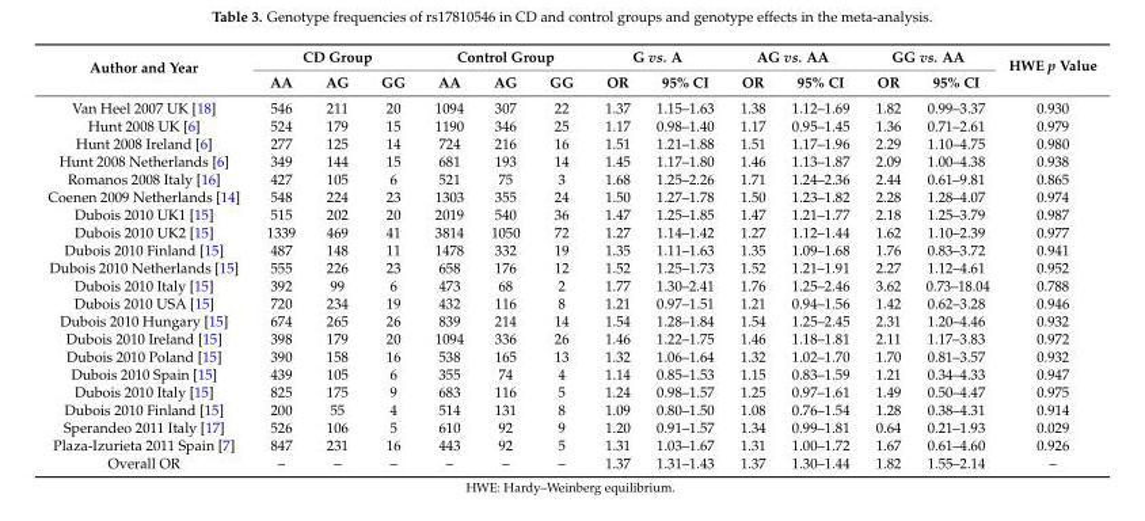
<table><thead><tr><td rowspan="2">Author and Year</td><td colspan="3">CD Group</td><td colspan="3">Control Group</td><td colspan="2">G vs. A</td><td colspan="2">AG vs. AA</td><td colspan="2">GG vs. AA</td><td rowspan="2">HWE p Value</td></tr><tr><td>AA</td><td>AG</td><td>GG</td><td>AA</td><td>AG</td><td>GG</td><td>OR</td><td>95% CI</td><td>OR</td><td>95% CI</td><td>OR</td><td>95% CI</td></tr></thead><tbody><tr><td>Van Heel 2007 UK [18]</td><td>546</td><td>211</td><td>20</td><td>1094</td><td>307</td><td>22</td><td>1.37</td><td>1.15–1.63</td><td>1.38</td><td>1.12–1.69</td><td>1.82</td><td>0.99–3.37</td><td>0.930</td></tr><tr><td>Hunt 2008 UK [6]</td><td>524</td><td>179</td><td>15</td><td>1190</td><td>346</td><td>25</td><td>1.17</td><td>0.98–1.40</td><td>1.17</td><td>0.95–1.45</td><td>1.36</td><td>0.71–2.61</td><td>0.979</td></tr><tr><td>Hunt 2008 Ireland [6]</td><td>277</td><td>125</td><td>14</td><td>724</td><td>216</td><td>16</td><td>1.51</td><td>1.21–1.88</td><td>1.51</td><td>1.17–1.96</td><td>2.29</td><td>1.10–4.75</td><td>0.980</td></tr><tr><td>Hunt 2008 Netherlands [6]</td><td>349</td><td>144</td><td>15</td><td>681</td><td>193</td><td>14</td><td>1.45</td><td>1.17–1.80</td><td>1.46</td><td>1.13–1.87</td><td>2.09</td><td>1.00–4.38</td><td>0.938</td></tr><tr><td>Romanos 2008 Italy [16]</td><td>427</td><td>105</td><td>6</td><td>521</td><td>75</td><td>3</td><td>1.68</td><td>1.25–2.26</td><td>1.71</td><td>1.24–2.36</td><td>2.44</td><td>0.61–9.81</td><td>0.865</td></tr><tr><td>Coenen 2009 Netherlands [14]</td><td>548</td><td>224</td><td>23</td><td>1303</td><td>355</td><td>24</td><td>1.50</td><td>1.27–1.78</td><td>1.50</td><td>1.23–1.82</td><td>2.28</td><td>1.28–4.07</td><td>0.974</td></tr><tr><td>Dubois 2010 UK1 [15]</td><td>515</td><td>202</td><td>20</td><td>2019</td><td>540</td><td>36</td><td>1.47</td><td>1.25–1.85</td><td>1.47</td><td>1.21–1.77</td><td>2.18</td><td>1.25–3.79</td><td>0.987</td></tr><tr><td>Dubois 2010 UK2 [15]</td><td>1339</td><td>469</td><td>41</td><td>3814</td><td>1050</td><td>72</td><td>1.27</td><td>1.14–1.42</td><td>1.27</td><td>1.12–1.44</td><td>1.62</td><td>1.10–2.39</td><td>0.977</td></tr><tr><td>Dubois 2010 Finland [15]</td><td>487</td><td>148</td><td>11</td><td>1478</td><td>332</td><td>19</td><td>1.35</td><td>1.11–1.63</td><td>1.35</td><td>1.09–1.68</td><td>1.76</td><td>0.83–3.72</td><td>0.941</td></tr><tr><td>Dubois 2010 Netherlands [15]</td><td>555</td><td>226</td><td>23</td><td>658</td><td>176</td><td>12</td><td>1.52</td><td>1.25–1.73</td><td>1.52</td><td>1.21–1.91</td><td>2.27</td><td>1.12–4.61</td><td>0.952</td></tr><tr><td>Dubois 2010 Italy [15]</td><td>392</td><td>99</td><td>6</td><td>473</td><td>68</td><td>2</td><td>1.77</td><td>1.30–2.41</td><td>1.76</td><td>1.25–2.46</td><td>3.62</td><td>0.73–18.04</td><td>0.788</td></tr><tr><td>Dubois 2010 USA [15]</td><td>720</td><td>234</td><td>19</td><td>432</td><td>116</td><td>8</td><td>1.21</td><td>0.97–1.51</td><td>1.21</td><td>0.94–1.56</td><td>1.42</td><td>0.62–3.28</td><td>0.946</td></tr><tr><td>Dubois 2010 Hungary [15]</td><td>674</td><td>265</td><td>26</td><td>839</td><td>214</td><td>14</td><td>1.54</td><td>1.28–1.84</td><td>1.54</td><td>1.25–2.45</td><td>2.31</td><td>1.20–4.46</td><td>0.932</td></tr><tr><td>Dubois 2010 Ireland [15]</td><td>398</td><td>179</td><td>20</td><td>1094</td><td>336</td><td>26</td><td>1.46</td><td>1.22–1.75</td><td>1.46</td><td>1.18–1.81</td><td>2.11</td><td>1.17–3.83</td><td>0.972</td></tr><tr><td>Dubois 2010 Poland [15]</td><td>390</td><td>158</td><td>16</td><td>538</td><td>165</td><td>13</td><td>1.32</td><td>1.06–1.64</td><td>1.32</td><td>1.02–1.70</td><td>1.70</td><td>0.81–3.57</td><td>0.932</td></tr><tr><td>Dubois 2010 Spain [15]</td><td>439</td><td>105</td><td>6</td><td>355</td><td>74</td><td>4</td><td>1.14</td><td>0.85–1.53</td><td>1.15</td><td>0.83–1.59</td><td>1.21</td><td>0.34–4.33</td><td>0.947</td></tr><tr><td>Dubois 2010 Italy [15]</td><td>825</td><td>175</td><td>9</td><td>683</td><td>116</td><td>5</td><td>1.24</td><td>0.98–1.57</td><td>1.25</td><td>0.97–1.61</td><td>1.49</td><td>0.50–4.47</td><td>0.975</td></tr><tr><td>Dubois 2010 Finland [15]</td><td>200</td><td>55</td><td>4</td><td>514</td><td>131</td><td>8</td><td>1.09</td><td>0.80–1.50</td><td>1.08</td><td>0.76–1.54</td><td>1.28</td><td>0.38–4.31</td><td>0.914</td></tr><tr><td>Sperandeo 2011 Italy [17]</td><td>526</td><td>106</td><td>5</td><td>610</td><td>92</td><td>9</td><td>1.20</td><td>0.91–1.57</td><td>1.34</td><td>0.99–1.81</td><td>0.64</td><td>0.21–1.93</td><td>0.029</td></tr><tr><td>Plaza-Izurieta 2011 Spain [7]</td><td>847</td><td>231</td><td>16</td><td>443</td><td>92</td><td>5</td><td>1.31</td><td>1.03–1.67</td><td>1.31</td><td>1.00–1.72</td><td>1.67</td><td>0.61–4.60</td><td>0.926</td></tr><tr><td>Overall OR</td><td>–</td><td>–</td><td>–</td><td>–</td><td>–</td><td>–</td><td>1.37</td><td>1.31–1.43</td><td>1.37</td><td>1.30–1.44</td><td>1.82</td><td>1.55–2.14</td><td>–</td></tr></tbody></table>